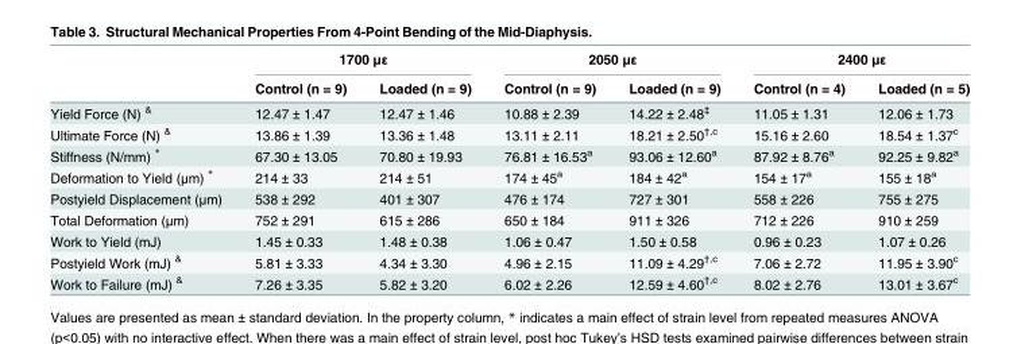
<table><thead><tr><td rowspan="2"></td><td colspan="2">1700 με</td><td colspan="2">2050 με</td><td colspan="2">2400 με</td></tr><tr><td>Control (n = 9)</td><td>Loaded (n = 9)</td><td>Control (n = 9)</td><td>Loaded (n = 9)</td><td>Control (n = 4)</td><td>Loaded (n = 5)</td></tr></thead><tbody><tr><td>Yield Force (N) <sup>&amp;</sup></td><td>12.47 ± 1.47</td><td>12.47 ± 1.46</td><td>10.88 ± 2.39</td><td>14.22 ± 2.48<sup>‡</sup></td><td>11.05 ± 1.31</td><td>12.06 ± 1.73</td></tr><tr><td>Ultimate Force (N) <sup>&amp;</sup></td><td>13.86 ± 1.39</td><td>13.36 ± 1.48</td><td>13.11 ± 2.11</td><td>18.21 ± 2.50<sup>†,c</sup></td><td>15.16 ± 2.60</td><td>18.54 ± 1.37<sup>c</sup></td></tr><tr><td>Stiffness (N/mm) *</td><td>67.30 ± 13.05</td><td>70.80 ± 19.93</td><td>76.81 ± 16.53<sup>a</sup></td><td>93.06 ± 12.60<sup>a</sup></td><td>87.92 ± 8.76<sup>a</sup></td><td>92.25 ± 9.82<sup>a</sup></td></tr><tr><td>Deformation to Yield (μm) *</td><td>214 ± 33</td><td>214 ± 51</td><td>174 ± 45<sup>a</sup></td><td>184 ± 42<sup>a</sup></td><td>154 ± 17<sup>a</sup></td><td>155 ± 18<sup>a</sup></td></tr><tr><td>Postyield Displacement (μm)</td><td>538 ± 292</td><td>401 ± 307</td><td>476 ± 174</td><td>727 ± 301</td><td>558 ± 226</td><td>755 ± 275</td></tr><tr><td>Total Deformation (μm)</td><td>752 ± 291</td><td>615 ± 286</td><td>650 ± 184</td><td>911 ± 326</td><td>712 ± 226</td><td>910 ± 259</td></tr><tr><td>Work to Yield (mJ)</td><td>1.45 ± 0.33</td><td>1.48 ± 0.38</td><td>1.06 ± 0.47</td><td>1.50 ± 0.58</td><td>0.96 ± 0.23</td><td>1.07 ± 0.26</td></tr><tr><td>Postyield Work (mJ) <sup>&amp;</sup></td><td>5.81 ± 3.33</td><td>4.34 ± 3.30</td><td>4.96 ± 2.15</td><td>11.09 ± 4.29<sup>†,c</sup></td><td>7.06 ± 2.72</td><td>11.95 ± 3.90<sup>c</sup></td></tr><tr><td>Work to Failure (mJ) <sup>&amp;</sup></td><td>7.26 ± 3.35</td><td>5.82 ± 3.20</td><td>6.02 ± 2.26</td><td>12.59 ± 4.60<sup>†,c</sup></td><td>8.02 ± 2.76</td><td>13.01 ± 3.67<sup>c</sup></td></tr></tbody></table>